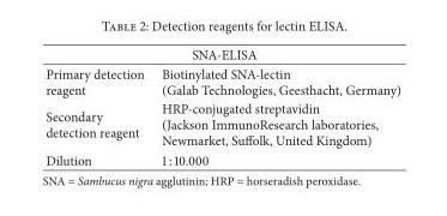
<table><thead><tr><td colspan="2">SNA-ELISA</td></tr><tr><td>Primary detection reagent</td><td>Biotinylated SNA-lectin (Galab Technologies, Geesthacht, Germany)</td></tr></thead><tbody><tr><td>Secondary detection reagent</td><td>HRP-conjugated streptavidin (Jackson ImmunoResearch laboratories, Newmarket, Suffolk, United Kingdom)</td></tr><tr><td>Dilution</td><td>1 : 10.000</td></tr></tbody></table>